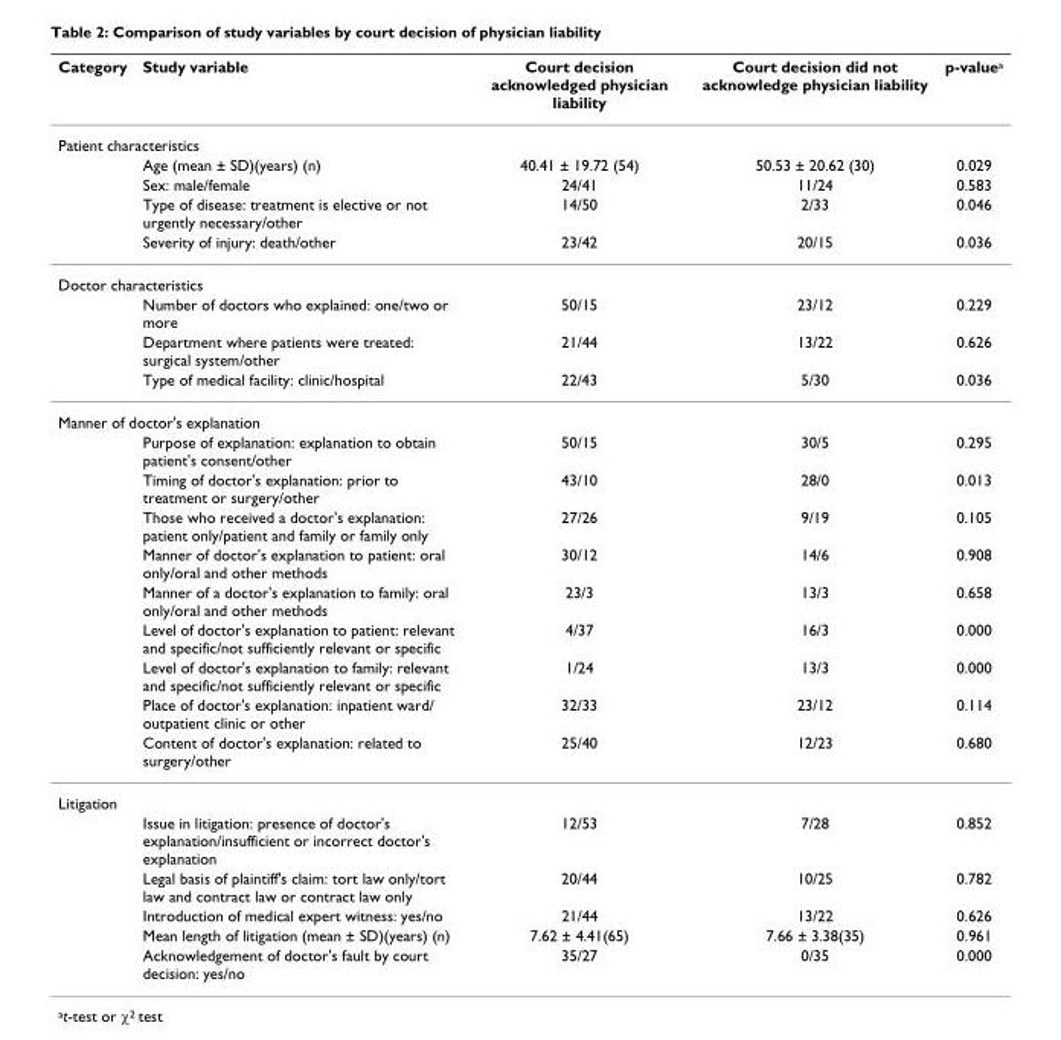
<table><thead><tr><td>Category</td><td>Study variable</td><td>Court decision acknowledged physician liability</td><td>Court decision did not acknowledge physician liability</td><td>p-value<sup>a</sup></td></tr></thead><tbody><tr><td colspan="5">Patient characteristics</td></tr><tr><td></td><td>Age (mean ± SD)(years) (n)</td><td>40.41 ± 19.72 (54)</td><td>50.53 ± 20.62 (30)</td><td>0.029</td></tr><tr><td></td><td>Sex: male/female</td><td>24/41</td><td>11/24</td><td>0.583</td></tr><tr><td></td><td>Type of disease: treatment is elective or not urgently necessary/other</td><td>14/50</td><td>2/33</td><td>0.046</td></tr><tr><td></td><td>Severity of injury: death/other</td><td>23/42</td><td>20/15</td><td>0.036</td></tr><tr><td colspan="5">Doctor characteristics</td></tr><tr><td></td><td>Number of doctors who explained: one/two or more</td><td>50/15</td><td>23/12</td><td>0.229</td></tr><tr><td></td><td>Department where patients were treated: surgical system/other</td><td>21/44</td><td>13/22</td><td>0.626</td></tr><tr><td></td><td>Type of medical facility: clinic/hospital</td><td>22/43</td><td>5/30</td><td>0.036</td></tr><tr><td colspan="5">Manner of doctor&#x27;s explanation</td></tr><tr><td></td><td>Purpose of explanation: explanation to obtain patient&#x27;s consent/other</td><td>50/15</td><td>30/5</td><td>0.295</td></tr><tr><td></td><td>Timing of doctor&#x27;s explanation: prior to treatment or surgery/other</td><td>43/10</td><td>28/0</td><td>0.013</td></tr><tr><td></td><td>Those who received a doctor&#x27;s explanation: patient only/patient and family or family only</td><td>27/26</td><td>9/19</td><td>0.105</td></tr><tr><td></td><td>Manner of doctor&#x27;s explanation to patient: oral only/oral and other methods</td><td>30/12</td><td>14/6</td><td>0.908</td></tr><tr><td></td><td>Manner of a doctor&#x27;s explanation to family: oral only/oral and other methods</td><td>23/3</td><td>13/3</td><td>0.658</td></tr><tr><td></td><td>Level of doctor&#x27;s explanation to patient: relevant and specific/not sufficiently relevant or specific</td><td>4/37</td><td>16/3</td><td>0.000</td></tr><tr><td></td><td>Level of doctor&#x27;s explanation to family: relevant and specific/not sufficiently relevant or specific</td><td>1/24</td><td>13/3</td><td>0.000</td></tr><tr><td></td><td>Place of doctor&#x27;s explanation: inpatient ward/ outpatient clinic or other</td><td>32/33</td><td>23/12</td><td>0.114</td></tr><tr><td></td><td>Content of doctor&#x27;s explanation: related to surgery/other</td><td>25/40</td><td>12/23</td><td>0.680</td></tr><tr><td colspan="5">Litigation</td></tr><tr><td></td><td>Issue in litigation: presence of doctor&#x27;s explanation/insufficient or incorrect doctor&#x27;s explanation</td><td>12/53</td><td>7/28</td><td>0.852</td></tr><tr><td></td><td>Legal basis of plaintiff&#x27;s claim: tort law only/tort law and contract law or contract law only</td><td>20/44</td><td>10/25</td><td>0.782</td></tr><tr><td></td><td>Introduction of medical expert witness: yes/no</td><td>21/44</td><td>13/22</td><td>0.626</td></tr><tr><td></td><td>Mean length of litigation (mean ± SD)(years) (n)</td><td>7.62 ± 4.41(65)</td><td>7.66 ± 3.38(35)</td><td>0.961</td></tr><tr><td></td><td>Acknowledgement of doctor&#x27;s fault by court decision: yes/no</td><td>35/27</td><td>0/35</td><td>0.000</td></tr></tbody></table>